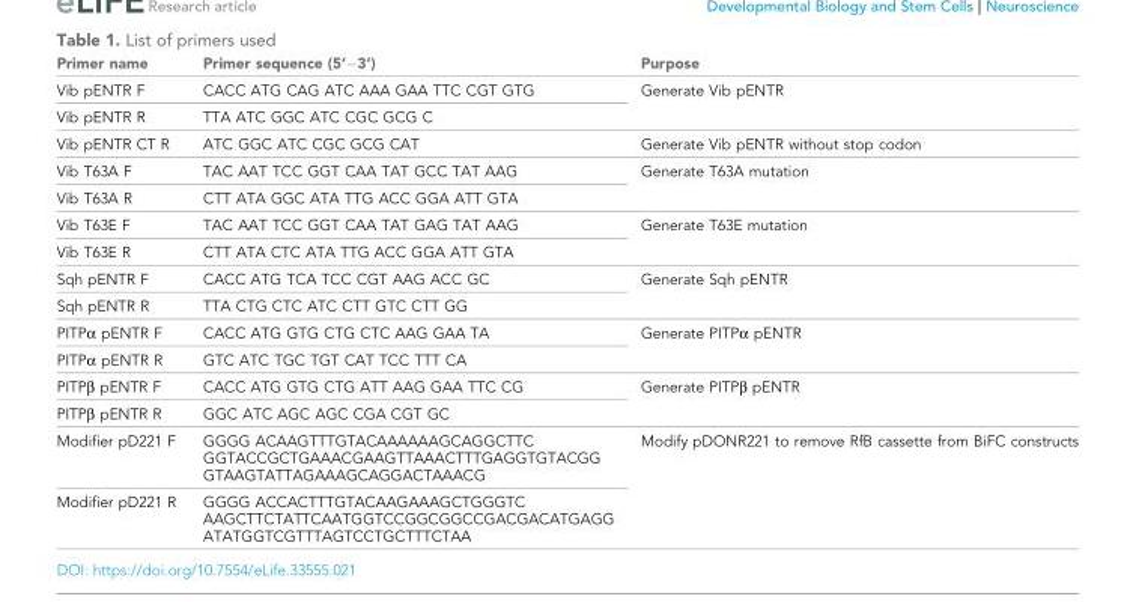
<table><thead><tr><td>Primer name</td><td>Primer sequence (5’−3’)</td><td>Purpose</td></tr></thead><tbody><tr><td>Vib pENTR F</td><td>CACC ATG CAG ATC AAA GAA TTC CGT GTG</td><td rowspan="2">Generate Vib pENTR</td></tr><tr><td>Vib pENTR R</td><td>TTA ATC GGC ATC CGC GCG C</td></tr><tr><td>Vib pENTR CT R</td><td>ATC GGC ATC CGC GCG CAT</td><td>Generate Vib pENTR without stop codon</td></tr><tr><td>Vib T63A F</td><td>TAC AAT TCC GGT CAA TAT GCC TAT AAG</td><td rowspan="2">Generate T63A mutation</td></tr><tr><td>Vib T63A R</td><td>CTT ATA GGC ATA TTG ACC GGA ATT GTA</td></tr><tr><td>Vib T63E F</td><td>TAC AAT TCC GGT CAA TAT GAG TAT AAG</td><td rowspan="2">Generate T63E mutation</td></tr><tr><td>Vib T63E R</td><td>CTT ATA CTC ATA TTG ACC GGA ATT GTA</td></tr><tr><td>Sqh pENTR F</td><td>CACC ATG TCA TCC CGT AAG ACC GC</td><td rowspan="2">Generate Sqh pENTR</td></tr><tr><td>Sqh pENTR R</td><td>TTA CTG CTC ATC CTT GTC CTT GG</td></tr><tr><td>PITPα pENTR F</td><td>CACC ATG GTG CTG CTC AAG GAA TA</td><td rowspan="2">Generate PITPα pENTR</td></tr><tr><td>PITPα pENTR R</td><td>GTC ATC TGC TGT CAT TCC TTT CA</td></tr><tr><td>PITPβ pENTR F</td><td>CACC ATG GTG CTG ATT AAG GAA TTC CG</td><td rowspan="2">Generate PITPβ pENTR</td></tr><tr><td>PITPβ pENTR R</td><td>GGC ATC AGC AGC CGA CGT GC</td></tr><tr><td>Modifier pD221 F</td><td>GGGG ACAAGTTTGTACAAAAAAGCAGGCTTC GGTACCGCTGAAACGAAGTTAAACTTTGAGGTGTACGG GTAAGTATTAGAAAGCAGGACTAAACG</td><td rowspan="2">Modify pDONR221 to remove RfB cassette from BiFC constructs</td></tr><tr><td>Modifier pD221 R</td><td>GGGG ACCACTTTGTACAAGAAAGCTGGGTC AAGCTTCTATTCAATGGTCCGGCGGCCGACGACATGAGG ATATGGTCGTTTAGTCCTGCTTTCTAA</td></tr></tbody></table>